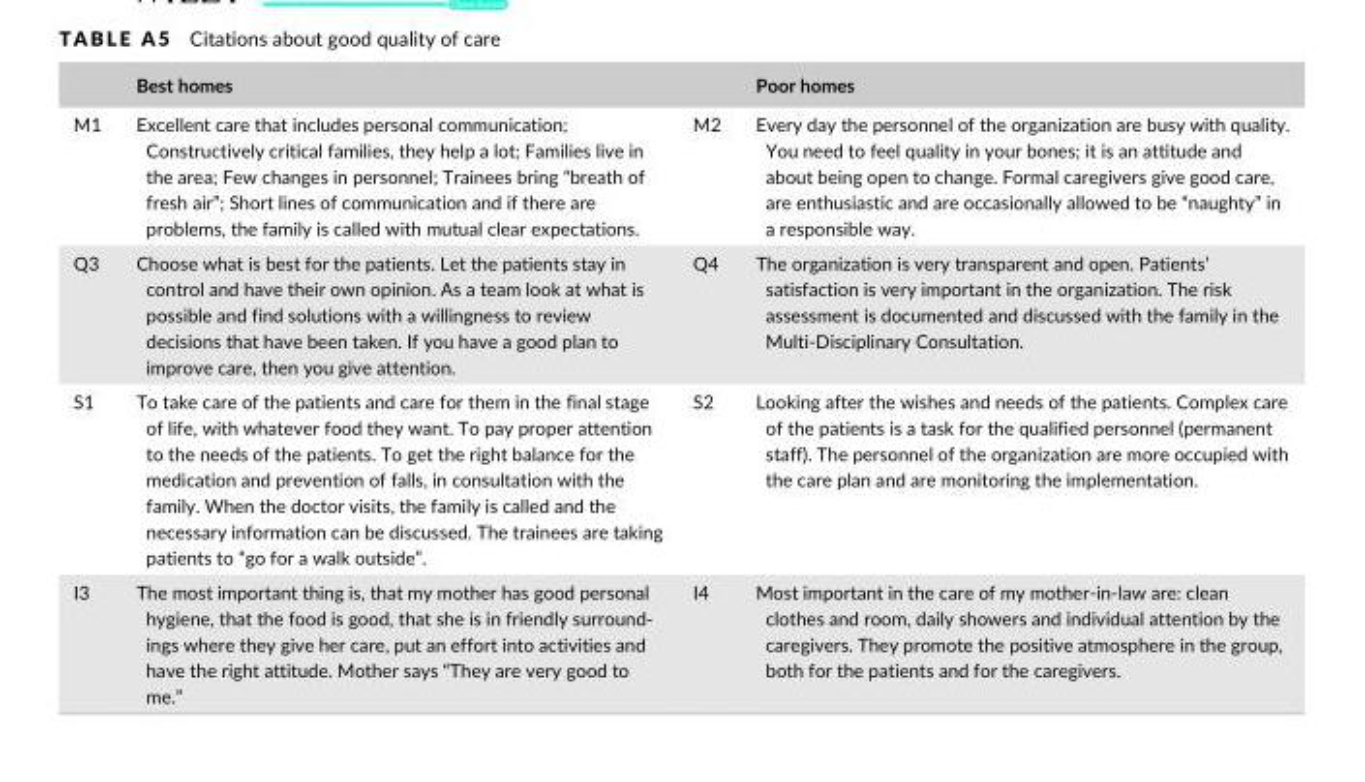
<table><thead><tr><td></td><td>Best homes</td><td></td><td>Poor homes</td></tr></thead><tbody><tr><td>M1</td><td>Excellent care that includes personal communication; Constructively critical families, they help a lot; Families live in the area; Few changes in personnel; Trainees bring “breath of fresh air”; Short lines of communication and if there are problems, the family is called with mutual clear expectations.</td><td>M2</td><td>Every day the personnel of the organization are busy with quality. You need to feel quality in your bones; it is an attitude and about being open to change. Formal caregivers give good care, are enthusiastic and are occasionally allowed to be “naughty” in a responsible way.</td></tr><tr><td>Q3</td><td>Choose what is best for the patients. Let the patients stay in control and have their own opinion. As a team look at what is possible and find solutions with a willingness to review decisions that have been taken. If you have a good plan to improve care, then you give attention.</td><td>Q4</td><td>The organization is very transparent and open. Patients’ satisfaction is very important in the organization. The risk assessment is documented and discussed with the family in the Multi- Disciplinary Consultation.</td></tr><tr><td>S1</td><td>To take care of the patients and care for them in the final stage of life, with whatever food they want. To pay proper attention to the needs of the patients. To get the right balance for the medication and prevention of falls, in consultation with the family. When the doctor visits, the family is called and the necessary information can be discussed. The trainees are taking patients to “go for a walk outside”.</td><td>S2</td><td>Looking after the wishes and needs of the patients. Complex care of the patients is a task for the qualified personnel (permanent staff). The personnel of the organization are more occupied with the care plan and are monitoring the implementation.</td></tr><tr><td>I3</td><td>The most important thing is, that my mother has good personal hygiene, that the food is good, that she is in friendly surround- ings where they give her care, put an effort into activities and have the right attitude. Mother says “They are very good to me.”</td><td>I4</td><td>Most important in the care of my mother- in- law are: clean clothes and room, daily showers and individual attention by the caregivers. They promote the positive atmosphere in the group, both for the patients and for the caregivers.</td></tr></tbody></table>